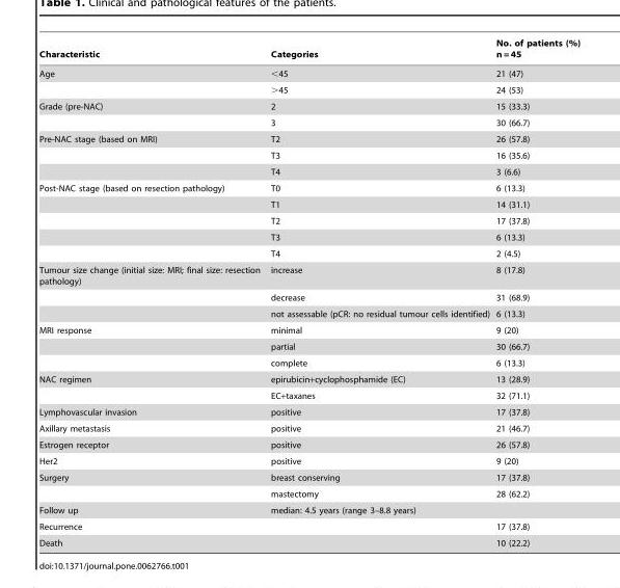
<table><thead><tr><td>Characteristic</td><td>Categories</td><td>No. of patients (%) n = 45</td></tr></thead><tbody><tr><td rowspan="2">Age</td><td>&lt;45</td><td>21 (47)</td></tr><tr><td>&gt;45</td><td>24 (53)</td></tr><tr><td rowspan="2">Grade (pre-NAC)</td><td>2</td><td>15 (33.3)</td></tr><tr><td>3</td><td>30 (66.7)</td></tr><tr><td rowspan="3">Pre-NAC stage (based on MRI)</td><td>T2</td><td>26 (57.8)</td></tr><tr><td>T3</td><td>16 (35.6)</td></tr><tr><td>T4</td><td>3 (6.6)</td></tr><tr><td rowspan="5">Post-NAC stage (based on resection pathology)</td><td>T0</td><td>6 (13.3)</td></tr><tr><td>T1</td><td>14 (31.1)</td></tr><tr><td>T2</td><td>17 (37.8)</td></tr><tr><td>T3</td><td>6 (13.3)</td></tr><tr><td>T4</td><td>2 (4.5)</td></tr><tr><td rowspan="3">Tumour size change (initial size: MRI; final size: resection pathology)</td><td>increase</td><td>8 (17.8)</td></tr><tr><td>decrease</td><td>31 (68.9)</td></tr><tr><td>not assessable (pCR: no residual tumour cells identified)</td><td>6 (13.3)</td></tr><tr><td rowspan="3">MRI response</td><td>minimal</td><td>9 (20)</td></tr><tr><td>partial</td><td>30 (66.7)</td></tr><tr><td>complete</td><td>6 (13.3)</td></tr><tr><td rowspan="2">NAC regimen</td><td>epirubicin+cyclophosphamide (EC)</td><td>13 (28.9)</td></tr><tr><td>EC+taxanes</td><td>32 (71.1)</td></tr><tr><td>Lymphovascular invasion</td><td>positive</td><td>17 (37.8)</td></tr><tr><td>Axillary metastasis</td><td>positive</td><td>21 (46.7)</td></tr><tr><td>Estrogen receptor</td><td>positive</td><td>26 (57.8)</td></tr><tr><td>Her2</td><td>positive</td><td>9 (20)</td></tr><tr><td rowspan="2">Surgery</td><td>breast conserving</td><td>17 (37.8)</td></tr><tr><td>mastectomy</td><td>28 (62.2)</td></tr><tr><td>Follow up</td><td>median: 4.5 years (range 3–8.8 years)</td><td></td></tr><tr><td>Recurrence</td><td></td><td>17 (37.8)</td></tr><tr><td>Death</td><td></td><td>10 (22.2)</td></tr></tbody></table>